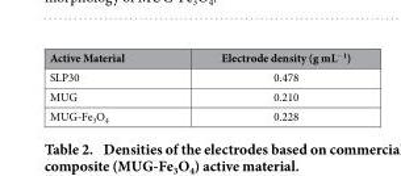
<table><thead><tr><td>Active Material</td><td>Electrode density (g mL<sup>−1</sup>)</td></tr></thead><tbody><tr><td>SLP30</td><td>0.478</td></tr><tr><td>MUG</td><td>0.210</td></tr><tr><td>MUG-Fe<sub>3</sub>O<sub>4</sub></td><td>0.228</td></tr></tbody></table>